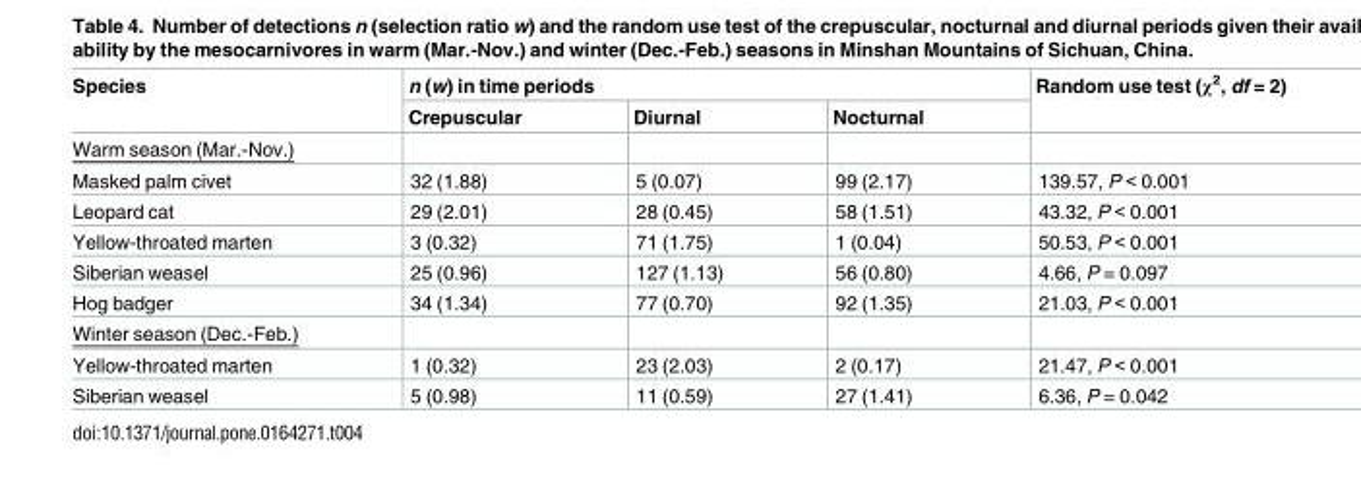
<table><thead><tr><td rowspan="2">Species</td><td colspan="3">n (w) in time periods</td><td rowspan="2">Random use test (χ<sup>2</sup>, df = 2)</td></tr><tr><td>Crepuscular</td><td>Diurnal</td><td>Nocturnal</td></tr></thead><tbody><tr><td colspan="5">Warm season (Mar.-Nov.)</td></tr><tr><td>Masked palm civet</td><td>32 (1.88)</td><td>5 (0.07)</td><td>99 (2.17)</td><td>139.57, P &lt; 0.001</td></tr><tr><td>Leopard cat</td><td>29 (2.01)</td><td>28 (0.45)</td><td>58 (1.51)</td><td>43.32, P &lt; 0.001</td></tr><tr><td>Yellow-throated marten</td><td>3 (0.32)</td><td>71 (1.75)</td><td>1 (0.04)</td><td>50.53, P &lt; 0.001</td></tr><tr><td>Siberian weasel</td><td>25 (0.96)</td><td>127 (1.13)</td><td>56 (0.80)</td><td>4.66, P = 0.097</td></tr><tr><td>Hog badger</td><td>34 (1.34)</td><td>77 (0.70)</td><td>92 (1.35)</td><td>21.03, P &lt; 0.001</td></tr><tr><td colspan="5">Winter season (Dec.-Feb.)</td></tr><tr><td>Yellow-throated marten</td><td>1 (0.32)</td><td>23 (2.03)</td><td>2 (0.17)</td><td>21.47, P &lt; 0.001</td></tr><tr><td>Siberian weasel</td><td>5 (0.98)</td><td>11 (0.59)</td><td>27 (1.41)</td><td>6.36, P = 0.042</td></tr></tbody></table>